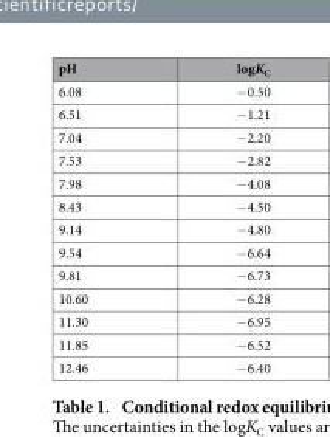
<table><thead><tr><td>pH</td><td>logK<sub>C</sub></td></tr></thead><tbody><tr><td>6.08</td><td>− 0.50</td></tr><tr><td>6.51</td><td>− 1.21</td></tr><tr><td>7.04</td><td>− 2.20</td></tr><tr><td>7.53</td><td>− 2.82</td></tr><tr><td>7.98</td><td>− 4.08</td></tr><tr><td>8.43</td><td>− 4.50</td></tr><tr><td>9.14</td><td>− 4.80</td></tr><tr><td>9.54</td><td>− 6.64</td></tr><tr><td>9.81</td><td>− 6.73</td></tr><tr><td>10.60</td><td>− 6.28</td></tr><tr><td>11.30</td><td>− 6.95</td></tr><tr><td>11.85</td><td>− 6.52</td></tr><tr><td>12.46</td><td>− 6.40</td></tr></tbody></table>